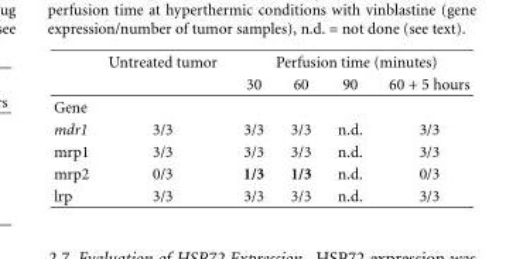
<table><thead><tr><td rowspan="2"></td><td rowspan="2">Untreated tumor</td><td colspan="4">Perfusion time (minutes)</td></tr><tr><td>30</td><td>60</td><td>90</td><td>60 + 5 hours</td></tr></thead><tbody><tr><td colspan="6">Gene</td></tr><tr><td>mdr1</td><td>3/3</td><td>3/3</td><td>3/3</td><td>n.d.</td><td>3/3</td></tr><tr><td>mrp1</td><td>3/3</td><td>3/3</td><td>3/3</td><td>n.d.</td><td>3/3</td></tr><tr><td>mrp2</td><td>0/3</td><td>1/3</td><td>1/3</td><td>n.d.</td><td>0/3</td></tr><tr><td>lrp</td><td>3/3</td><td>3/3</td><td>3/3</td><td>n.d.</td><td>3/3</td></tr></tbody></table>